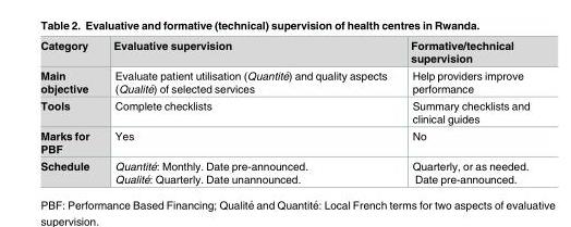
<table><thead><tr><td>Category</td><td>Evaluative supervision</td><td>Formative/technical supervision</td></tr></thead><tbody><tr><td>Main objective</td><td>Evaluate patient utilisation (Quantite´) and quality aspects (Qualite´) of selected services</td><td>Help providers improve performance</td></tr><tr><td>Tools</td><td>Complete checklists</td><td>Summary checklists and clinical guides</td></tr><tr><td>Marks for PBF</td><td>Yes</td><td>No</td></tr><tr><td>Schedule</td><td>Quantite´: Monthly. Date pre-announced. Qualite´: Quarterly. Date unannounced.</td><td>Quarterly, or as needed. Date pre-announced.</td></tr></tbody></table>